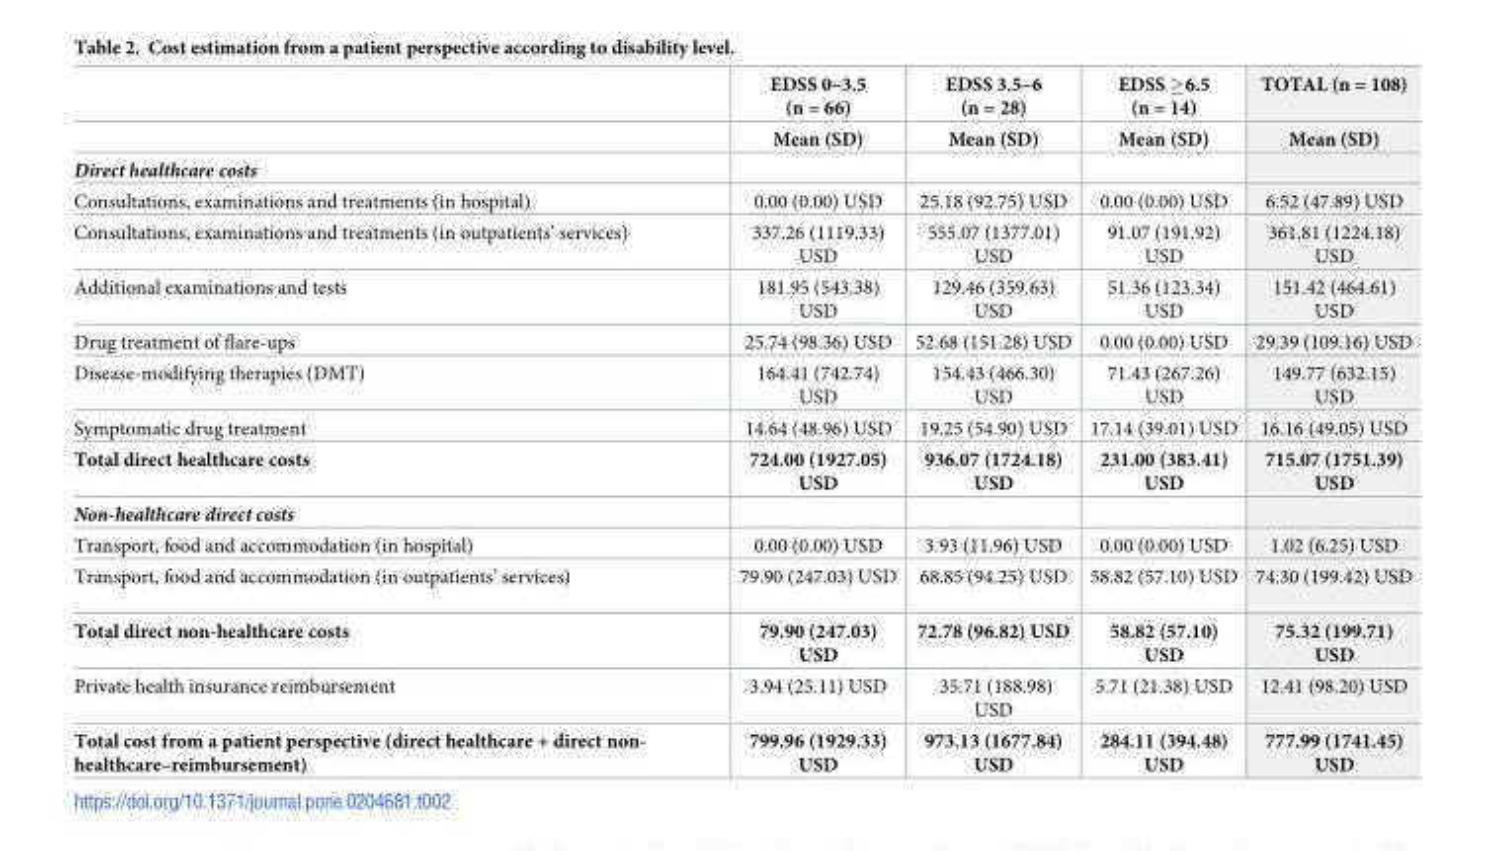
<table><thead><tr><td rowspan="2"></td><td rowspan="2">EDSS 0–3.5 (n = 66) Mean (SD)</td><td rowspan="2">EDSS 3.5–6 (n = 28) Mean (SD)</td><td rowspan="2">EDSS ≥6.5 (n = 14) Mean (SD)</td><td rowspan="2">TOTAL (n = 108) Mean (SD)</td></tr><tr></tr></thead><tbody><tr><td colspan="5">Direct healthcare costs</td></tr><tr><td>Consultations, examinations and treatments (in hospital)</td><td>0.00 (0.00) USD</td><td>25.18 (92.75) USD</td><td>0.00 (0.00) USD</td><td>6.52 (47.89) USD</td></tr><tr><td>Consultations, examinations and treatments (in outpatients’ services)</td><td>337.26 (1119.33) USD</td><td>555.07 (1377.01) USD</td><td>91.07 (191.92) USD</td><td>361.81 (1224.18) USD</td></tr><tr><td>Additional examinations and tests</td><td>181.95 (543.38) USD</td><td>129.46 (359.63) USD</td><td>51.36 (123.34) USD</td><td>151.42 (464.61) USD</td></tr><tr><td>Drug treatment of flare-ups</td><td>25.74 (98.36) USD</td><td>52.68 (151.28) USD</td><td>0.00 (0.00) USD</td><td>29.39 (109.16) USD</td></tr><tr><td>Disease-modifying therapies (DMT)</td><td>164.41 (742.74) USD</td><td>154.43 (466.30) USD</td><td>71.43 (267.26) USD</td><td>149.77 (632.15) USD</td></tr><tr><td>Symptomatic drug treatment</td><td>14.64 (48.96) USD</td><td>19.25 (54.90) USD</td><td>17.14 (39.01) USD</td><td>16.16 (49.05) USD</td></tr><tr><td>Total direct healthcare costs</td><td>724.00 (1927.05) USD</td><td>936.07 (1724.18) USD</td><td>231.00 (383.41) USD</td><td>715.07 (1751.39) USD</td></tr><tr><td colspan="5">Non-healthcare direct costs</td></tr><tr><td>Transport, food and accommodation (in hospital)</td><td>0.00 (0.00) USD</td><td>3.93 (11.96) USD</td><td>0.00 (0.00) USD</td><td>1.02 (6.25) USD</td></tr><tr><td>Transport, food and accommodation (in outpatients’ services)</td><td>79.90 (247.03) USD</td><td>68.85 (94.25) USD</td><td>58.82 (57.10) USD</td><td>74.30 (199.42) USD</td></tr><tr><td>Total direct non-healthcare costs</td><td>79.90 (247.03) USD</td><td>72.78 (96.82) USD</td><td>58.82 (57.10) USD</td><td>75.32 (199.71) USD</td></tr><tr><td>Private health insurance reimbursement</td><td>3.94 (25.11) USD</td><td>35.71 (188.98) USD</td><td>5.71 (21.38) USD</td><td>12.41 (98.20) USD</td></tr><tr><td>Total cost from a patient perspective (direct healthcare + direct non- healthcare–reimbursement)</td><td>799.96 (1929.33) USD</td><td>973.13 (1677.84) USD</td><td>284.11 (394.48) USD</td><td>777.99 (1741.45) USD</td></tr></tbody></table>